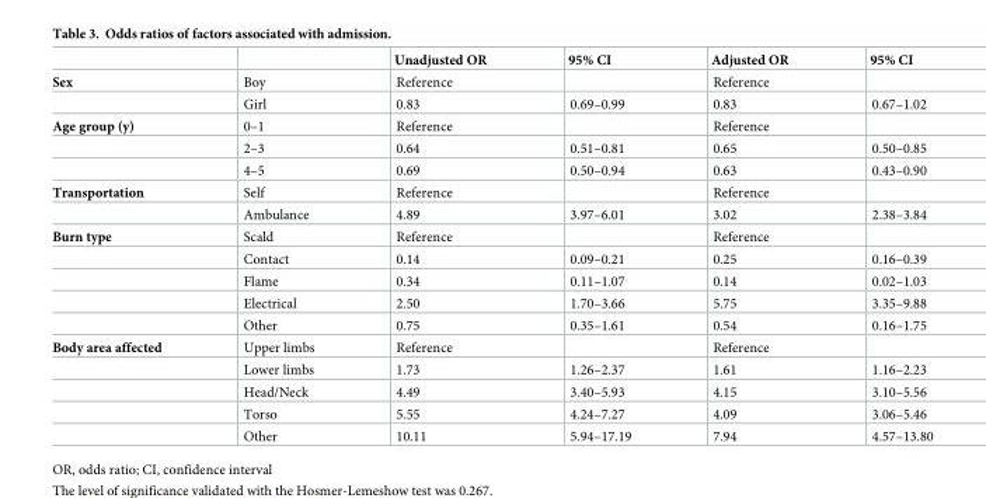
<table><thead><tr><td></td><td></td><td>Unadjusted OR</td><td>95% CI</td><td>Adjusted OR</td><td>95% CI</td></tr></thead><tbody><tr><td rowspan="2">Sex</td><td>Boy</td><td>Reference</td><td></td><td>Reference</td><td></td></tr><tr><td>Girl</td><td>0.83</td><td>0.69–0.99</td><td>0.83</td><td>0.67–1.02</td></tr><tr><td rowspan="3">Age group (y)</td><td>0–1</td><td>Reference</td><td></td><td>Reference</td><td></td></tr><tr><td>2–3</td><td>0.64</td><td>0.51–0.81</td><td>0.65</td><td>0.50–0.85</td></tr><tr><td>4–5</td><td>0.69</td><td>0.50–0.94</td><td>0.63</td><td>0.43–0.90</td></tr><tr><td rowspan="2">Transportation</td><td>Self</td><td>Reference</td><td></td><td>Reference</td><td></td></tr><tr><td>Ambulance</td><td>4.89</td><td>3.97–6.01</td><td>3.02</td><td>2.38–3.84</td></tr><tr><td rowspan="5">Burn type</td><td>Scald</td><td>Reference</td><td></td><td>Reference</td><td></td></tr><tr><td>Contact</td><td>0.14</td><td>0.09–0.21</td><td>0.25</td><td>0.16–0.39</td></tr><tr><td>Flame</td><td>0.34</td><td>0.11–1.07</td><td>0.14</td><td>0.02–1.03</td></tr><tr><td>Electrical</td><td>2.50</td><td>1.70–3.66</td><td>5.75</td><td>3.35–9.88</td></tr><tr><td>Other</td><td>0.75</td><td>0.35–1.61</td><td>0.54</td><td>0.16–1.75</td></tr><tr><td rowspan="5">Body area affected</td><td>Upper limbs</td><td>Reference</td><td></td><td>Reference</td><td></td></tr><tr><td>Lower limbs</td><td>1.73</td><td>1.26–2.37</td><td>1.61</td><td>1.16–2.23</td></tr><tr><td>Head/Neck</td><td>4.49</td><td>3.40–5.93</td><td>4.15</td><td>3.10–5.56</td></tr><tr><td>Torso</td><td>5.55</td><td>4.24–7.27</td><td>4.09</td><td>3.06–5.46</td></tr><tr><td>Other</td><td>10.11</td><td>5.94–17.19</td><td>7.94</td><td>4.57–13.80</td></tr></tbody></table>